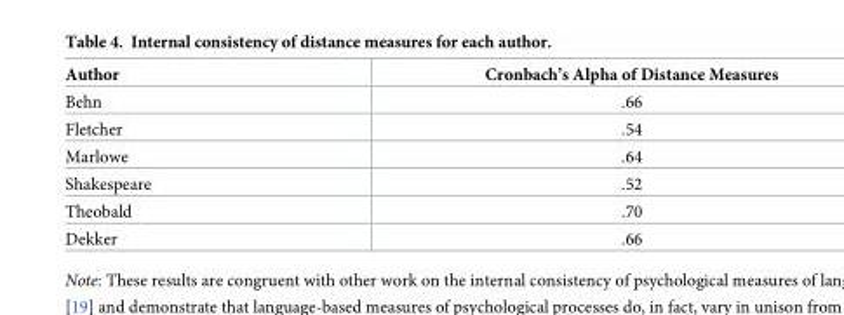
<table><thead><tr><td>Author</td><td>Cronbach’s Alpha of Distance Measures</td></tr></thead><tbody><tr><td>Behn</td><td>.66</td></tr><tr><td>Fletcher</td><td>.54</td></tr><tr><td>Marlowe</td><td>.64</td></tr><tr><td>Shakespeare</td><td>.52</td></tr><tr><td>Theobald</td><td>.70</td></tr><tr><td>Dekker</td><td>.66</td></tr></tbody></table>